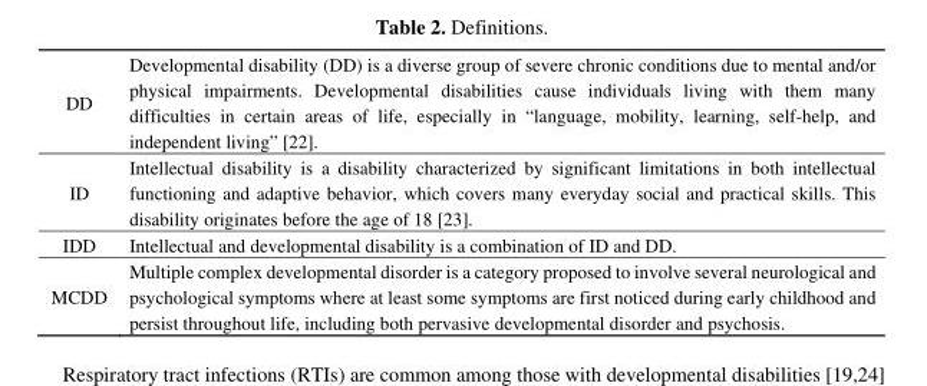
<table><tbody><tr><td>DD</td><td>Developmental disability (DD) is a diverse group of severe chronic conditions due to mental and/or physical impairments. Developmental disabilities cause individuals living with them many difficulties in certain areas of life, especially in “language, mobility, learning, self-help, and independent living” [22].</td></tr><tr><td>ID</td><td>Intellectual disability is a disability characterized by significant limitations in both intellectual functioning and adaptive behavior, which covers many everyday social and practical skills. This disability originates before the age of 18 [23].</td></tr><tr><td>IDD</td><td>Intellectual and developmental disability is a combination of ID and DD.</td></tr><tr><td>MCDD</td><td>Multiple complex developmental disorder is a category proposed to involve several neurological and psychological symptoms where at least some symptoms are first noticed during early childhood and persist throughout life, including both pervasive developmental disorder and psychosis.</td></tr></tbody></table>